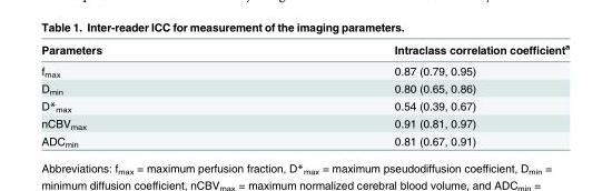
<table><thead><tr><td>Parameters</td><td>Intraclass correlation coefficient<sup>a</sup></td></tr></thead><tbody><tr><td>f<sub>max</sub></td><td>0.87 (0.79, 0.95)</td></tr><tr><td>D<sub>min</sub></td><td>0.80 (0.65, 0.86)</td></tr><tr><td>D*<sub>max</sub></td><td>0.54 (0.39, 0.67)</td></tr><tr><td>nCBV<sub>max</sub></td><td>0.91 (0.81, 0.97)</td></tr><tr><td>ADC<sub>min</sub></td><td>0.81 (0.67, 0.91)</td></tr></tbody></table>